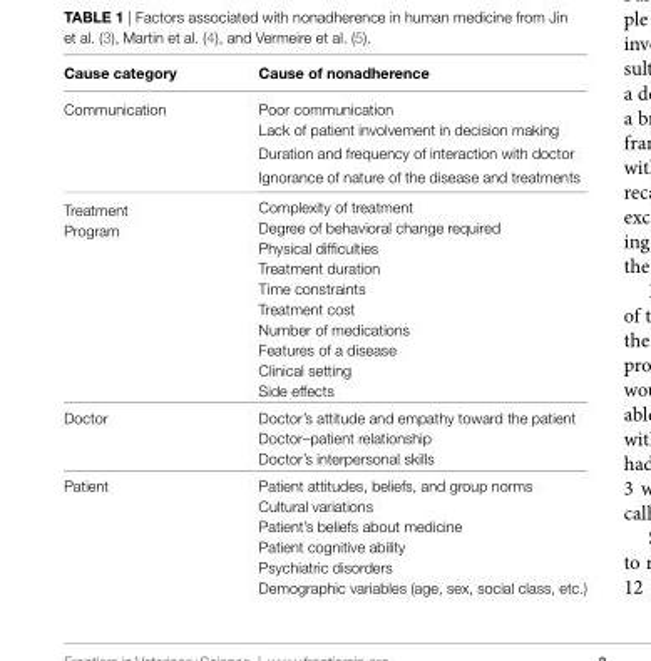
<table><thead><tr><td>cause category</td><td>cause of nonadherence</td></tr></thead><tbody><tr><td rowspan="4">Communication</td><td>Poor communication</td></tr><tr><td>Lack of patient involvement in decision making</td></tr><tr><td>Duration and frequency of interaction with doctor</td></tr><tr><td>Ignorance of nature of the disease and treatments</td></tr><tr><td rowspan="10">Treatment Program</td><td>Complexity of treatment</td></tr><tr><td>Degree of behavioral change required</td></tr><tr><td>Physical difficulties</td></tr><tr><td>Treatment duration</td></tr><tr><td>Time constraints</td></tr><tr><td>Treatment cost</td></tr><tr><td>Number of medications</td></tr><tr><td>Features of a disease</td></tr><tr><td>Clinical setting</td></tr><tr><td>Side effects</td></tr><tr><td rowspan="3">Doctor</td><td>Doctor’s attitude and empathy toward the patient</td></tr><tr><td>Doctor–patient relationship</td></tr><tr><td>Doctor’s interpersonal skills</td></tr><tr><td rowspan="6">Patient</td><td>Patient attitudes, beliefs, and group norms</td></tr><tr><td>Cultural variations</td></tr><tr><td>Patient’s beliefs about medicine</td></tr><tr><td>Patient cognitive ability</td></tr><tr><td>Psychiatric disorders</td></tr><tr><td>Demographic variables (age, sex, social class, etc.)</td></tr></tbody></table>